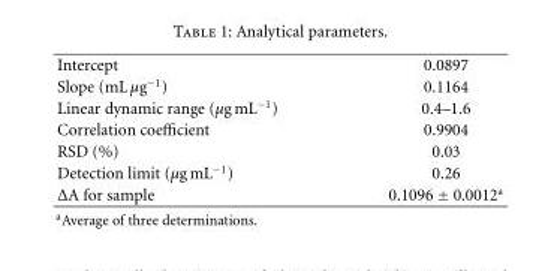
<table><tbody><tr><td>Intercept</td><td>0.0897</td></tr><tr><td>Slope (mL µg<sup>−1</sup>)</td><td>0.1164</td></tr><tr><td>Linear dynamic range (µg mL<sup>−1</sup>)</td><td>0.4–1.6</td></tr><tr><td>Correlation coefficient</td><td>0.9904</td></tr><tr><td>RSD (%)</td><td>0.03</td></tr><tr><td>Detection limit (µg mL<sup>−1</sup>)</td><td>0.26</td></tr><tr><td>ΔA for sample</td><td>0.1096 ± 0.0012<sup>a</sup></td></tr></tbody></table>